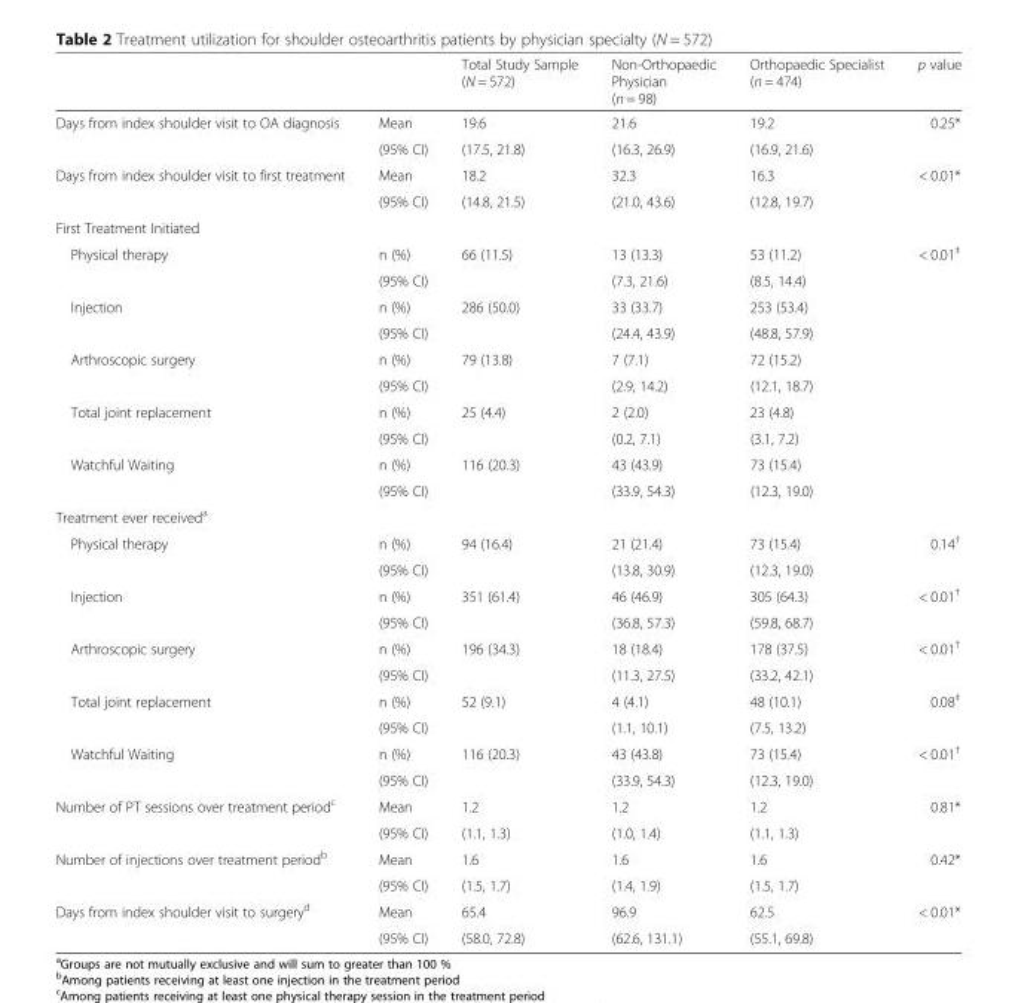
<table><thead><tr><td></td><td></td><td>Total Study Sample (N = 572)</td><td>Non-Orthopaedic Physician (n = 98)</td><td>Orthopaedic Specialist (n = 474)</td><td>p value</td></tr></thead><tbody><tr><td rowspan="2">Days from index shoulder visit to OA diagnosis</td><td>Mean</td><td>19.6</td><td>21.6</td><td>19.2</td><td>0.25*</td></tr><tr><td>(95% CI)</td><td>(17.5, 21.8)</td><td>(16.3, 26.9)</td><td>(16.9, 21.6)</td><td></td></tr><tr><td rowspan="2">Days from index shoulder visit to first treatment</td><td>Mean</td><td>18.2</td><td>32.3</td><td>16.3</td><td>&lt; 0.01*</td></tr><tr><td>(95% CI)</td><td>(14.8, 21.5)</td><td>(21.0, 43.6)</td><td>(12.8, 19.7)</td><td></td></tr><tr><td colspan="6">First Treatment Initiated</td></tr><tr><td rowspan="2">Physical therapy</td><td>n (%)</td><td>66 (11.5)</td><td>13 (13.3)</td><td>53 (11.2)</td><td>&lt; 0.01<sup>‡</sup></td></tr><tr><td>(95% CI)</td><td></td><td>(7.3, 21.6)</td><td>(8.5, 14.4)</td><td></td></tr><tr><td rowspan="2">Injection</td><td>n (%)</td><td>286 (50.0)</td><td>33 (33.7)</td><td>253 (53.4)</td><td></td></tr><tr><td>(95% CI)</td><td></td><td>(24.4, 43.9)</td><td>(48.8, 57.9)</td><td></td></tr><tr><td rowspan="2">Arthroscopic surgery</td><td>n (%)</td><td>79 (13.8)</td><td>7 (7.1)</td><td>72 (15.2)</td><td></td></tr><tr><td>(95% CI)</td><td></td><td>(2.9, 14.2)</td><td>(12.1, 18.7)</td><td></td></tr><tr><td rowspan="2">Total joint replacement</td><td>n (%)</td><td>25 (4.4)</td><td>2 (2.0)</td><td>23 (4.8)</td><td></td></tr><tr><td>(95% CI)</td><td></td><td>(0.2, 7.1)</td><td>(3.1, 7.2)</td><td></td></tr><tr><td rowspan="2">Watchful Waiting</td><td>n (%)</td><td>116 (20.3)</td><td>43 (43.9)</td><td>73 (15.4)</td><td></td></tr><tr><td>(95% CI)</td><td></td><td>(33.9, 54.3)</td><td>(12.3, 19.0)</td><td></td></tr><tr><td colspan="6">Treatment ever received<sup>a</sup></td></tr><tr><td rowspan="2">Physical therapy</td><td>n (%)</td><td>94 (16.4)</td><td>21 (21.4)</td><td>73 (15.4)</td><td>0.14<sup>†</sup></td></tr><tr><td>(95% CI)</td><td></td><td>(13.8, 30.9)</td><td>(12.3, 19.0)</td><td></td></tr><tr><td rowspan="2">Injection</td><td>n (%)</td><td>351 (61.4)</td><td>46 (46.9)</td><td>305 (64.3)</td><td>&lt; 0.01<sup>†</sup></td></tr><tr><td>(95% CI)</td><td></td><td>(36.8, 57.3)</td><td>(59.8, 68.7)</td><td></td></tr><tr><td rowspan="2">Arthroscopic surgery</td><td>n (%)</td><td>196 (34.3)</td><td>18 (18.4)</td><td>178 (37.5)</td><td>&lt; 0.01<sup>†</sup></td></tr><tr><td>(95% CI)</td><td></td><td>(11.3, 27.5)</td><td>(33.2, 42.1)</td><td></td></tr><tr><td rowspan="2">Total joint replacement</td><td>n (%)</td><td>52 (9.1)</td><td>4 (4.1)</td><td>48 (10.1)</td><td>0.08<sup>‡</sup></td></tr><tr><td>(95% CI)</td><td></td><td>(1.1, 10.1)</td><td>(7.5, 13.2)</td><td></td></tr><tr><td rowspan="2">Watchful Waiting</td><td>n (%)</td><td>116 (20.3)</td><td>43 (43.8)</td><td>73 (15.4)</td><td>&lt; 0.01<sup>†</sup></td></tr><tr><td>(95% CI)</td><td></td><td>(33.9, 54.3)</td><td>(12.3, 19.0)</td><td></td></tr><tr><td rowspan="2">Number of PT sessions over treatment period<sup>c</sup></td><td>Mean</td><td>1.2</td><td>1.2</td><td>1.2</td><td>0.81*</td></tr><tr><td>(95% CI)</td><td>(1.1, 1.3)</td><td>(1.0, 1.4)</td><td>(1.1, 1.3)</td><td></td></tr><tr><td rowspan="2">Number of injections over treatment period<sup>b</sup></td><td>Mean</td><td>1.6</td><td>1.6</td><td>1.6</td><td>0.42*</td></tr><tr><td>(95% CI)</td><td>(1.5, 1.7)</td><td>(1.4, 1.9)</td><td>(1.5, 1.7)</td><td></td></tr><tr><td rowspan="2">Days from index shoulder visit to surgery<sup>d</sup></td><td>Mean</td><td>65.4</td><td>96.9</td><td>62.5</td><td>&lt; 0.01*</td></tr><tr><td>(95% CI)</td><td>(58.0, 72.8)</td><td>(62.6, 131.1)</td><td>(55.1, 69.8)</td><td></td></tr></tbody></table>